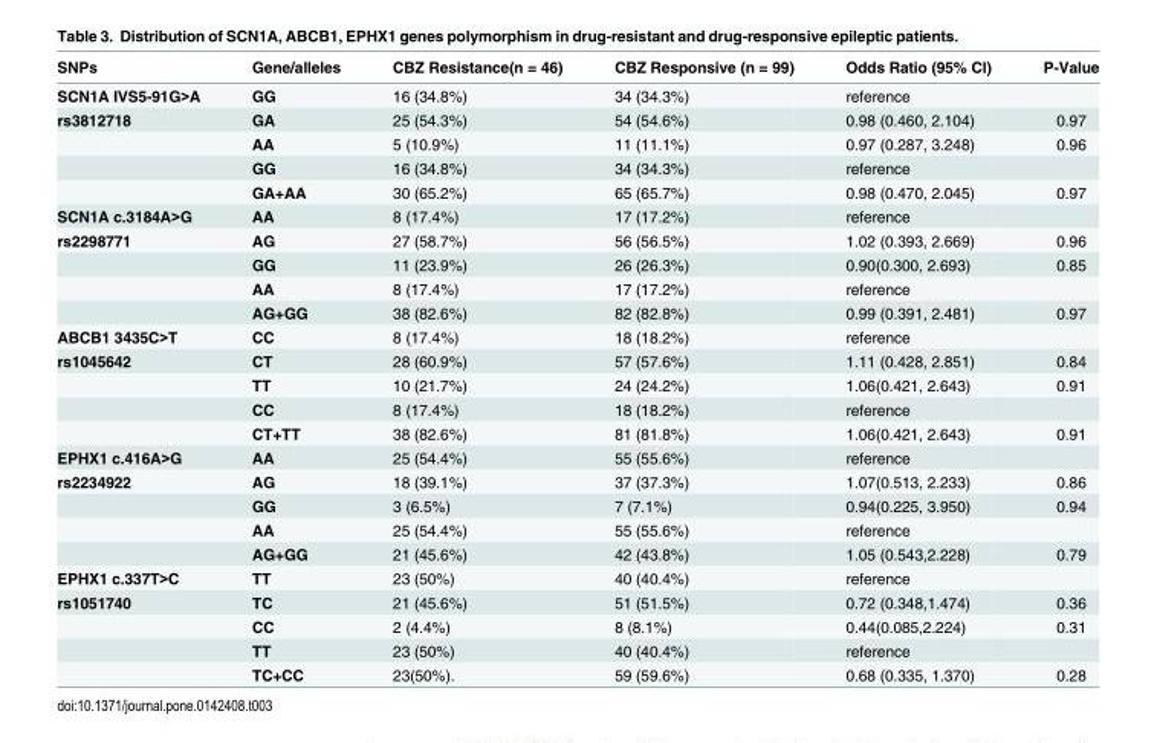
<table><thead><tr><td>SNPs</td><td>Gene/alleles</td><td>CBZ Resistance(n = 46)</td><td>CBZ Responsive (n = 99)</td><td>Odds Ratio (95% Cl)</td><td>P-Value</td></tr></thead><tbody><tr><td>SCN1A IVS5-91G&gt;A</td><td>GG</td><td>16 (34.8%)</td><td>34 (34.3%)</td><td>reference</td><td></td></tr><tr><td rowspan="4">rs3812718</td><td>GA</td><td>25 (54.3%)</td><td>54 (54.6%)</td><td>0.98 (0.460, 2.104)</td><td>0.97</td></tr><tr><td>AA</td><td>5 (10.9%)</td><td>11 (11.1%)</td><td>0.97 (0.287, 3.248)</td><td>0.96</td></tr><tr><td>GG</td><td>16 (34.8%)</td><td>34 (34.3%)</td><td>reference</td><td></td></tr><tr><td>GA+AA</td><td>30 (65.2%)</td><td>65 (65.7%)</td><td>0.98 (0.470, 2.045)</td><td>0.97</td></tr><tr><td>SCN1A c.3184A&gt;G</td><td>AA</td><td>8 (17.4%)</td><td>17 (17.2%)</td><td>reference</td><td></td></tr><tr><td rowspan="4">rs2298771</td><td>AG</td><td>27 (58.7%)</td><td>56 (56.5%)</td><td>1.02 (0.393, 2.669)</td><td>0.96</td></tr><tr><td>GG</td><td>11 (23.9%)</td><td>26 (26.3%)</td><td>0.90(0.300, 2.693)</td><td>0.85</td></tr><tr><td>AA</td><td>8 (17.4%)</td><td>17 (17.2%)</td><td>reference</td><td></td></tr><tr><td>AG+GG</td><td>38 (82.6%)</td><td>82 (82.8%)</td><td>0.99 (0.391, 2.481)</td><td>0.97</td></tr><tr><td>ABCB1 3435C&gt;T</td><td>CC</td><td>8 (17.4%)</td><td>18 (18.2%)</td><td>reference</td><td></td></tr><tr><td rowspan="4">rs1045642</td><td>CT</td><td>28 (60.9%)</td><td>57 (57.6%)</td><td>1.11 (0.428, 2.851)</td><td>0.84</td></tr><tr><td>TT</td><td>10 (21.7%)</td><td>24 (24.2%)</td><td>1.06(0.421, 2.643)</td><td>0.91</td></tr><tr><td>CC</td><td>8 (17.4%)</td><td>18 (18.2%)</td><td>reference</td><td></td></tr><tr><td>CT+TT</td><td>38 (82.6%)</td><td>81 (81.8%)</td><td>1.06(0.421, 2.643)</td><td>0.91</td></tr><tr><td>EPHX1 c.416A&gt;G</td><td>AA</td><td>25 (54.4%)</td><td>55 (55.6%)</td><td>reference</td><td></td></tr><tr><td rowspan="4">rs2234922</td><td>AG</td><td>18 (39.1%)</td><td>37 (37.3%)</td><td>1.07(0.513, 2.233)</td><td>0.86</td></tr><tr><td>GG</td><td>3 (6.5%)</td><td>7 (7.1%)</td><td>0.94(0.225, 3.950)</td><td>0.94</td></tr><tr><td>AA</td><td>25 (54.4%)</td><td>55 (55.6%)</td><td>reference</td><td></td></tr><tr><td>AG+GG</td><td>21 (45.6%)</td><td>42 (43.8%)</td><td>1.05 (0.543,2.228)</td><td>0.79</td></tr><tr><td>EPHX1 c.337T&gt;C</td><td>TT</td><td>23 (50%)</td><td>40 (40.4%)</td><td>reference</td><td></td></tr><tr><td rowspan="4">rs1051740</td><td>TC</td><td>21 (45.6%)</td><td>51 (51.5%)</td><td>0.72 (0.348,1.474)</td><td>0.36</td></tr><tr><td>CC</td><td>2 (4.4%)</td><td>8 (8.1%)</td><td>0.44(0.085,2.224)</td><td>0.31</td></tr><tr><td>TT</td><td>23 (50%)</td><td>40 (40.4%)</td><td>reference</td><td></td></tr><tr><td>TC+CC</td><td>23(50%).</td><td>59 (59.6%)</td><td>0.68 (0.335, 1.370)</td><td>0.28</td></tr></tbody></table>